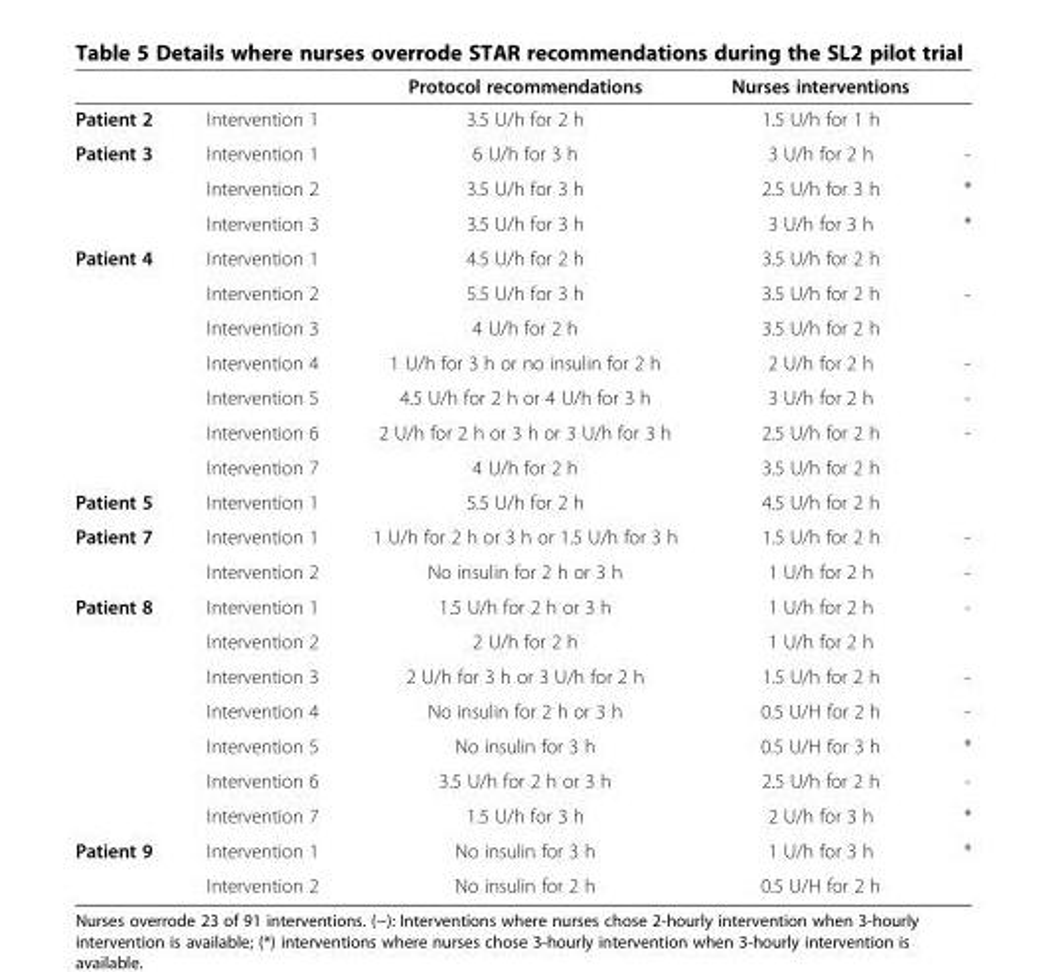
<table><thead><tr><td></td><td></td><td>Protocol recommendations</td><td>Nurses interventions</td><td></td></tr></thead><tbody><tr><td>Patient 2</td><td>Intervention 1</td><td>3.5 U/h for 2 h</td><td>1.5 U/h for 1 h</td><td></td></tr><tr><td rowspan="3">Patient 3</td><td>Intervention 1</td><td>6 U/h for 3 h</td><td>3 U/h for 2 h</td><td>-</td></tr><tr><td>Intervention 2</td><td>3.5 U/h for 3 h</td><td>2.5 U/h for 3 h</td><td>*</td></tr><tr><td>Intervention 3</td><td>3.5 U/h for 3 h</td><td>3 U/h for 3 h</td><td>*</td></tr><tr><td rowspan="7">Patient 4</td><td>Intervention 1</td><td>4.5 U/h for 2 h</td><td>3.5 U/h for 2 h</td><td></td></tr><tr><td>Intervention 2</td><td>5.5 U/h for 3 h</td><td>3.5 U/h for 2 h</td><td>-</td></tr><tr><td>Intervention 3</td><td>4 U/h for 2 h</td><td>3.5 U/h for 2 h</td><td></td></tr><tr><td>Intervention 4</td><td>1 U/h for 3 h or no insulin for 2 h</td><td>2 U/h for 2 h</td><td>-</td></tr><tr><td>Intervention 5</td><td>4.5 U/h for 2 h or 4 U/h for 3 h</td><td>3 U/h for 2 h</td><td>-</td></tr><tr><td>Intervention 6</td><td>2 U/h for 2 h or 3 h or 3 U/h for 3 h</td><td>2.5 U/h for 2 h</td><td>-</td></tr><tr><td>Intervention 7</td><td>4 U/h for 2 h</td><td>3.5 U/h for 2 h</td><td></td></tr><tr><td>Patient 5</td><td>Intervention 1</td><td>5.5 U/h for 2 h</td><td>4.5 U/h for 2 h</td><td></td></tr><tr><td rowspan="2">Patient 7</td><td>Intervention 1</td><td>1 U/h for 2 h or 3 h or 1.5 U/h for 3 h</td><td>1.5 U/h for 2 h</td><td>-</td></tr><tr><td>Intervention 2</td><td>No insulin for 2 h or 3 h</td><td>1 U/h for 2 h</td><td>-</td></tr><tr><td rowspan="7">Patient 8</td><td>Intervention 1</td><td>1.5 U/h for 2 h or 3 h</td><td>1 U/h for 2 h</td><td>-</td></tr><tr><td>Intervention 2</td><td>2 U/h for 2 h</td><td>1 U/h for 2 h</td><td></td></tr><tr><td>Intervention 3</td><td>2 U/h for 3 h or 3 U/h for 2 h</td><td>1.5 U/h for 2 h</td><td>-</td></tr><tr><td>Intervention 4</td><td>No insulin for 2 h or 3 h</td><td>0.5 U/H for 2 h</td><td>-</td></tr><tr><td>Intervention 5</td><td>No insulin for 3 h</td><td>0.5 U/H for 3 h</td><td>*</td></tr><tr><td>Intervention 6</td><td>3.5 U/h for 2 h or 3 h</td><td>2.5 U/h for 2 h</td><td>-</td></tr><tr><td>Intervention 7</td><td>1.5 U/h for 3 h</td><td>2 U/h for 3 h</td><td>*</td></tr><tr><td rowspan="2">Patient 9</td><td>Intervention 1</td><td>No insulin for 3 h</td><td>1 U/h for 3 h</td><td>*</td></tr><tr><td>Intervention 2</td><td>No insulin for 2 h</td><td>0.5 U/H for 2 h</td><td></td></tr></tbody></table>